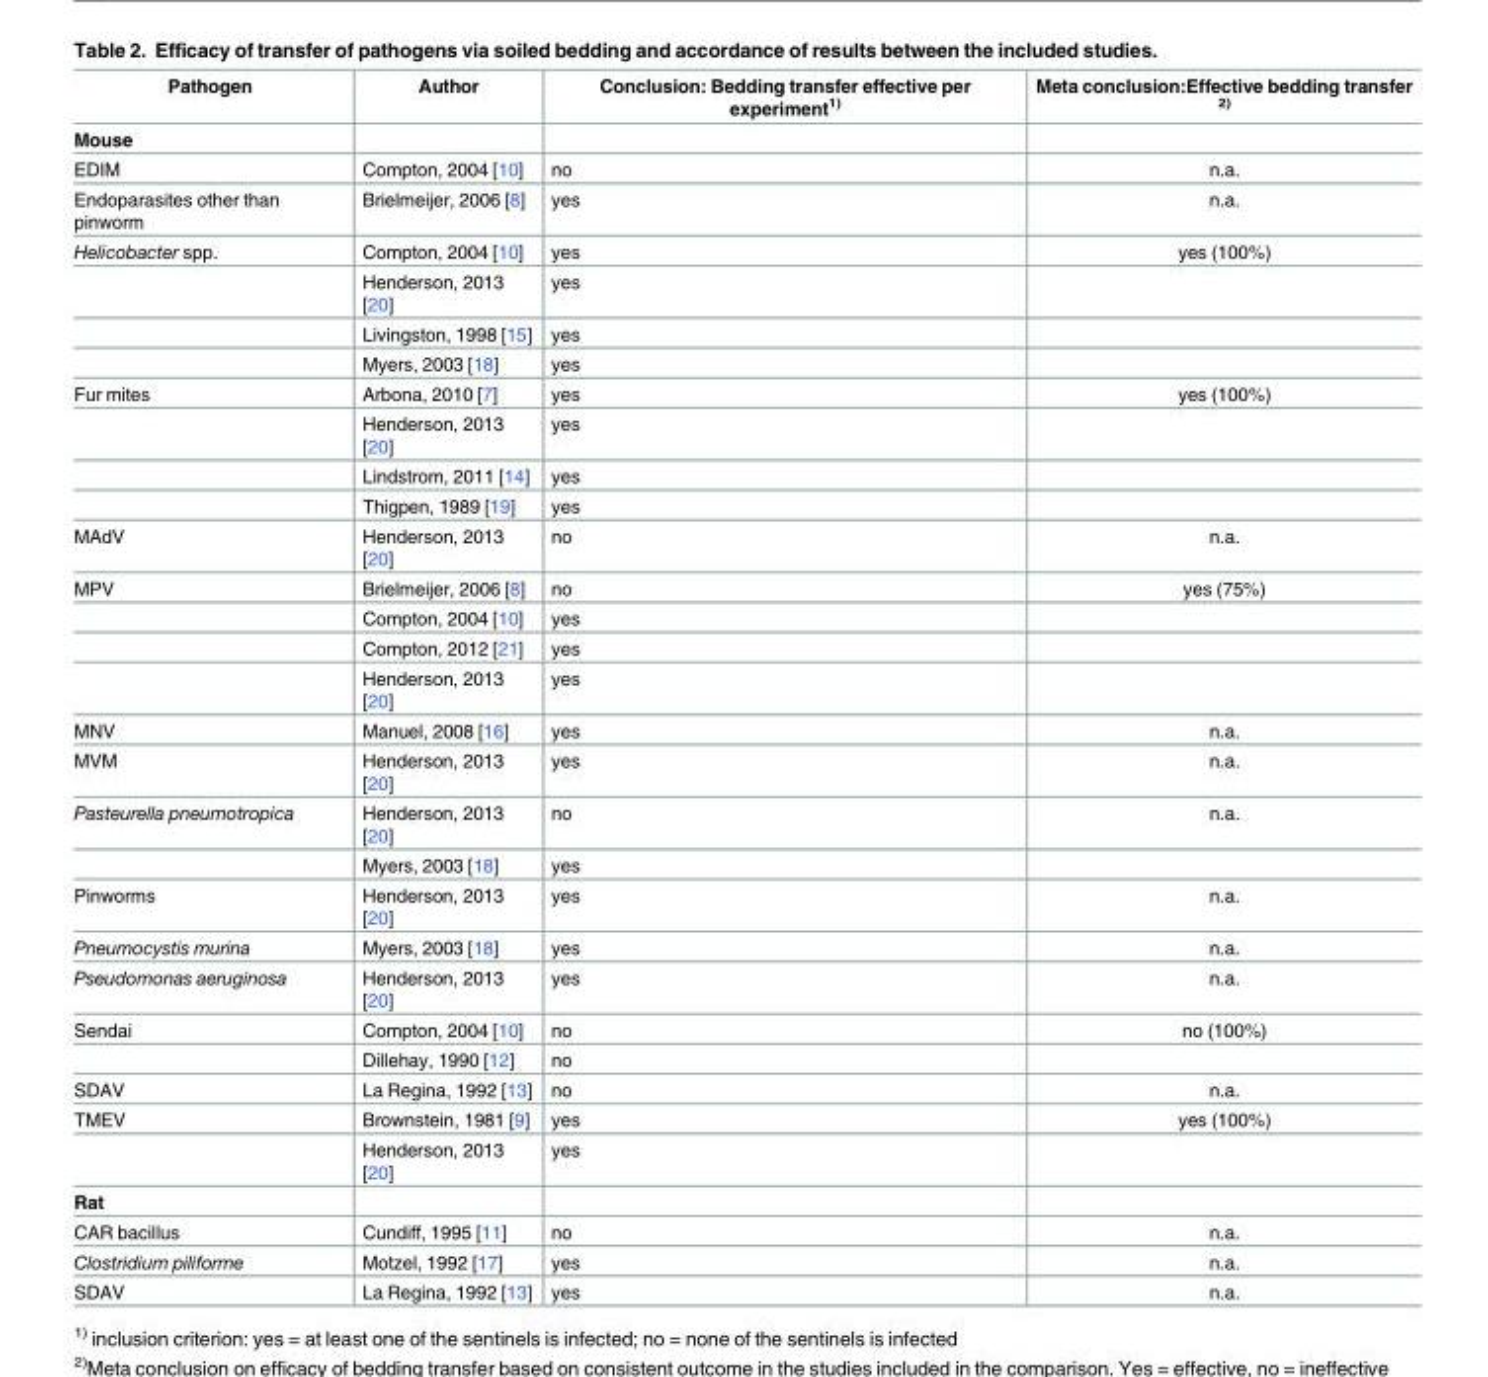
<table><thead><tr><td>Pathogen</td><td>Author</td><td>Conclusion: Bedding transfer effective per experiment<sup>1)</sup></td><td>Meta conclusion:Effective bedding transfer <sup>2)</sup></td></tr></thead><tbody><tr><td colspan="4">Mouse</td></tr><tr><td>EDIM</td><td>Compton, 2004 [10]</td><td>no</td><td>n.a.</td></tr><tr><td>Endoparasites other than pinworm</td><td>Brielmeijer, 2006 [8]</td><td>yes</td><td>n.a.</td></tr><tr><td rowspan="4">Helicobacter spp.</td><td>Compton, 2004 [10]</td><td>yes</td><td>yes (100%)</td></tr><tr><td>Henderson, 2013 [20]</td><td>yes</td><td></td></tr><tr><td>Livingston, 1998 [15]</td><td>yes</td><td></td></tr><tr><td>Myers, 2003 [18]</td><td>yes</td><td></td></tr><tr><td rowspan="4">Fur mites</td><td>Arbona, 2010 [7]</td><td>yes</td><td>yes (100%)</td></tr><tr><td>Henderson, 2013 [20]</td><td>yes</td><td></td></tr><tr><td>Lindstrom, 2011 [14]</td><td>yes</td><td></td></tr><tr><td>Thigpen, 1989 [19]</td><td>yes</td><td></td></tr><tr><td>MAdV</td><td>Henderson, 2013 [20]</td><td>no</td><td>n.a.</td></tr><tr><td rowspan="4">MPV</td><td>Brielmeijer, 2006 [8]</td><td>no</td><td>yes (75%)</td></tr><tr><td>Compton, 2004 [10]</td><td>yes</td><td></td></tr><tr><td>Compton, 2012 [21]</td><td>yes</td><td></td></tr><tr><td>Henderson, 2013 [20]</td><td>yes</td><td></td></tr><tr><td>MNV</td><td>Manuel, 2008 [16]</td><td>yes</td><td>n.a.</td></tr><tr><td>MVM</td><td>Henderson, 2013 [20]</td><td>yes</td><td>n.a.</td></tr><tr><td rowspan="2">Pasteurella pneumotropica</td><td>Henderson, 2013 [20]</td><td>no</td><td>n.a.</td></tr><tr><td>Myers, 2003 [18]</td><td>yes</td><td></td></tr><tr><td>Pinworms</td><td>Henderson, 2013 [20]</td><td>yes</td><td>n.a.</td></tr><tr><td>Pneumocystis murina</td><td>Myers, 2003 [18]</td><td>yes</td><td>n.a.</td></tr><tr><td>Pseudomonas aeruginosa</td><td>Henderson, 2013 [20]</td><td>yes</td><td>n.a.</td></tr><tr><td rowspan="2">Sendai</td><td>Compton, 2004 [10]</td><td>no</td><td>no (100%)</td></tr><tr><td>Dillehay, 1990 [12]</td><td>no</td><td></td></tr><tr><td>SDAV</td><td>La Regina, 1992 [13]</td><td>no</td><td>n.a.</td></tr><tr><td rowspan="2">TMEV</td><td>Brownstein, 1981 [9]</td><td>yes</td><td>yes (100%)</td></tr><tr><td>Henderson, 2013 [20]</td><td>yes</td><td></td></tr><tr><td colspan="4">Rat</td></tr><tr><td>CAR bacillus</td><td>Cundiff, 1995 [11]</td><td>no</td><td>n.a.</td></tr><tr><td>Clostridium piliforme</td><td>Motzel, 1992 [17]</td><td>yes</td><td>n.a.</td></tr><tr><td>SDAV</td><td>La Regina, 1992 [13]</td><td>yes</td><td>n.a.</td></tr></tbody></table>